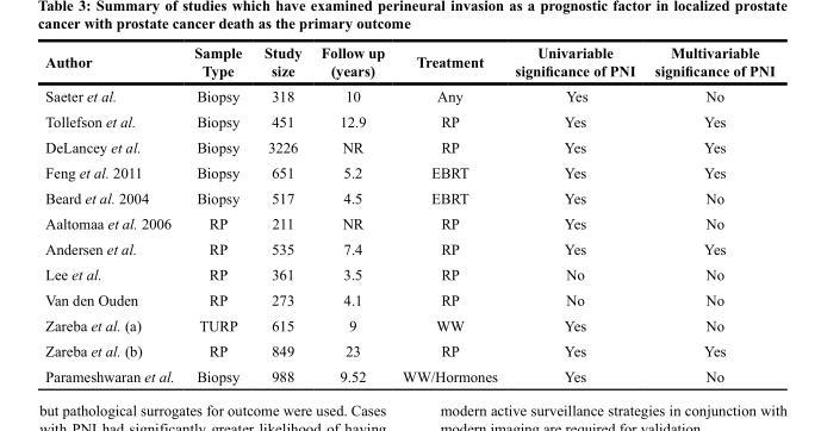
<table><thead><tr><td>Author</td><td>Sample Type</td><td>Study size</td><td>Follow up (years)</td><td>Treatment</td><td>Univariable significance of PNI</td><td>Multivariable significance of PNI</td></tr></thead><tbody><tr><td>Saeter et al.</td><td>Biopsy</td><td>318</td><td>10</td><td>Any</td><td>Yes</td><td>No</td></tr><tr><td>Tollefson et al.</td><td>Biopsy</td><td>451</td><td>12.9</td><td>RP</td><td>Yes</td><td>Yes</td></tr><tr><td>DeLancey et al.</td><td>Biopsy</td><td>3226</td><td>NR</td><td>RP</td><td>Yes</td><td>Yes</td></tr><tr><td>Feng et al. 2011</td><td>Biopsy</td><td>651</td><td>5.2</td><td>EBRT</td><td>Yes</td><td>Yes</td></tr><tr><td>Beard et al. 2004</td><td>Biopsy</td><td>517</td><td>4.5</td><td>EBRT</td><td>Yes</td><td>No</td></tr><tr><td>Aaltomaa et al. 2006</td><td>RP</td><td>211</td><td>NR</td><td>RP</td><td>Yes</td><td>No</td></tr><tr><td>Andersen et al.</td><td>RP</td><td>535</td><td>7.4</td><td>RP</td><td>Yes</td><td>Yes</td></tr><tr><td>Lee et al.</td><td>RP</td><td>361</td><td>3.5</td><td>RP</td><td>No</td><td>No</td></tr><tr><td>Van den Ouden</td><td>RP</td><td>273</td><td>4.1</td><td>RP</td><td>No</td><td>No</td></tr><tr><td>Zareba et al. (a)</td><td>TURP</td><td>615</td><td>9</td><td>WW</td><td>Yes</td><td>No</td></tr><tr><td>Zareba et al. (b)</td><td>RP</td><td>849</td><td>23</td><td>RP</td><td>Yes</td><td>Yes</td></tr><tr><td>Parameshwaran et al.</td><td>Biopsy</td><td>988</td><td>9.52</td><td>WW/Hormones</td><td>Yes</td><td>No</td></tr></tbody></table>